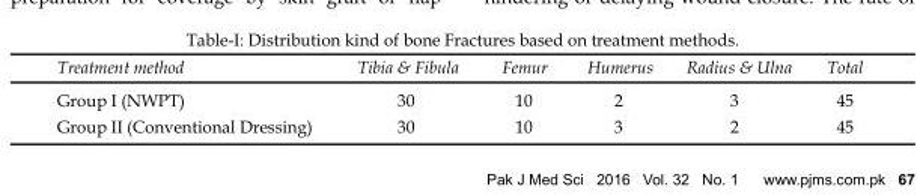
<table><thead><tr><td>Treatment method</td><td>Tibia &amp; Fibula</td><td>Femur</td><td>Humerus</td><td>Radius &amp; Ulna</td><td>Total</td></tr></thead><tbody><tr><td>Group I (NWPT)</td><td>30</td><td>10</td><td>2</td><td>3</td><td>45</td></tr><tr><td>Group II (Conventional Dressing)</td><td>30</td><td>10</td><td>3</td><td>2</td><td>45</td></tr></tbody></table>